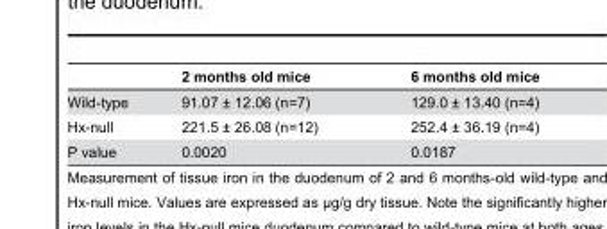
<table><thead><tr><td></td><td>2 months old mice</td><td>6 months old mice</td></tr></thead><tbody><tr><td>Wild-type</td><td>91.07 ± 12.06 (n=7)</td><td>129.0 ± 13.40 (n=4)</td></tr><tr><td>Hx-null</td><td>221.5 ± 26.08 (n=12)</td><td>252.4 ± 36.19 (n=4)</td></tr><tr><td>P value</td><td>0.0020</td><td>0.0187</td></tr></tbody></table>